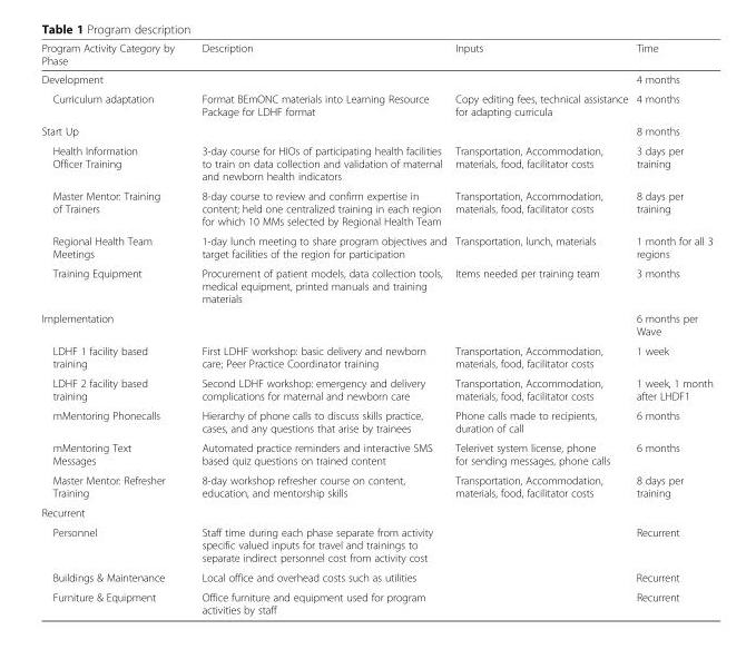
<table><thead><tr><td>Program Activity Category by Phase</td><td>Description</td><td>Inputs</td><td>Time</td></tr></thead><tbody><tr><td>Development</td><td></td><td></td><td>4 months</td></tr><tr><td>Curriculum adaptation</td><td>Format BEmONC materials into Learning Resource Package for LDHF format</td><td>Copy editing fees, technical assistance for adapting curricula</td><td>4 months</td></tr><tr><td>Start Up</td><td></td><td></td><td>8 months</td></tr><tr><td>Health Information Officer Training</td><td>3-day course for HIOs of participating health facilities to train on data collection and validation of maternal and newborn health indicators</td><td>Transportation, Accommodation, materials, food, facilitator costs</td><td>3 days per training</td></tr><tr><td>Master Mentor: Training of Trainers</td><td>8-day course to review and confirm expertise in content; held one centralized training in each region for which 10 MMs selected by Regional Health Team</td><td>Transportation, Accommodation, materials, food, facilitator costs</td><td>8 days per training</td></tr><tr><td>Regional Health Team Meetings</td><td>1-day lunch meeting to share program objectives and target facilities of the region for participation</td><td>Transportation, lunch, materials</td><td>1 month for all 3 regions</td></tr><tr><td>Training Equipment</td><td>Procurement of patient models, data collection tools, medical equipment, printed manuals and training materials</td><td>Items needed per training team</td><td>3 months</td></tr><tr><td>Implementation</td><td></td><td></td><td>6 months per Wave</td></tr><tr><td>LDHF 1 facility based training</td><td>First LDHF workshop: basic delivery and newborn care; Peer Practice Coordinator training</td><td>Transportation, Accommodation, materials, food, facilitator costs</td><td>1 week</td></tr><tr><td>LDHF 2 facility based training</td><td>Second LDHF workshop: emergency and delivery complications for maternal and newborn care</td><td>Transportation, Accommodation, materials, food, facilitator costs</td><td>1 week, 1 month after LHDF1</td></tr><tr><td>mMentoring Phonecalls</td><td>Hierarchy of phone calls to discuss skills practice, cases, and any questions that arise by trainees</td><td>Phone calls made to recipients, duration of call</td><td>6 months</td></tr><tr><td>mMentoring Text Messages</td><td>Automated practice reminders and interactive SMS based quiz questions on trained content</td><td>Telerivet system license, phone for sending messages, phone calls</td><td>6 months</td></tr><tr><td>Master Mentor: Refresher Training</td><td>8-day workshop refresher course on content, education, and mentorship skills</td><td>Transportation, Accommodation, materials, food, facilitator costs</td><td>8 days per training</td></tr><tr><td colspan="4">Recurrent</td></tr><tr><td>Personnel</td><td colspan="2">Staff time during each phase separate from activity specific valued inputs for travel and trainings to separate indirect personnel cost from activity cost</td><td>Recurrent</td></tr><tr><td>Buildings &amp; Maintenance</td><td colspan="2">Local office and overhead costs such as utilities</td><td>Recurrent</td></tr><tr><td>Furniture &amp; Equipment</td><td colspan="2">Office furniture and equipment used for program activities by staff</td><td>Recurrent</td></tr></tbody></table>